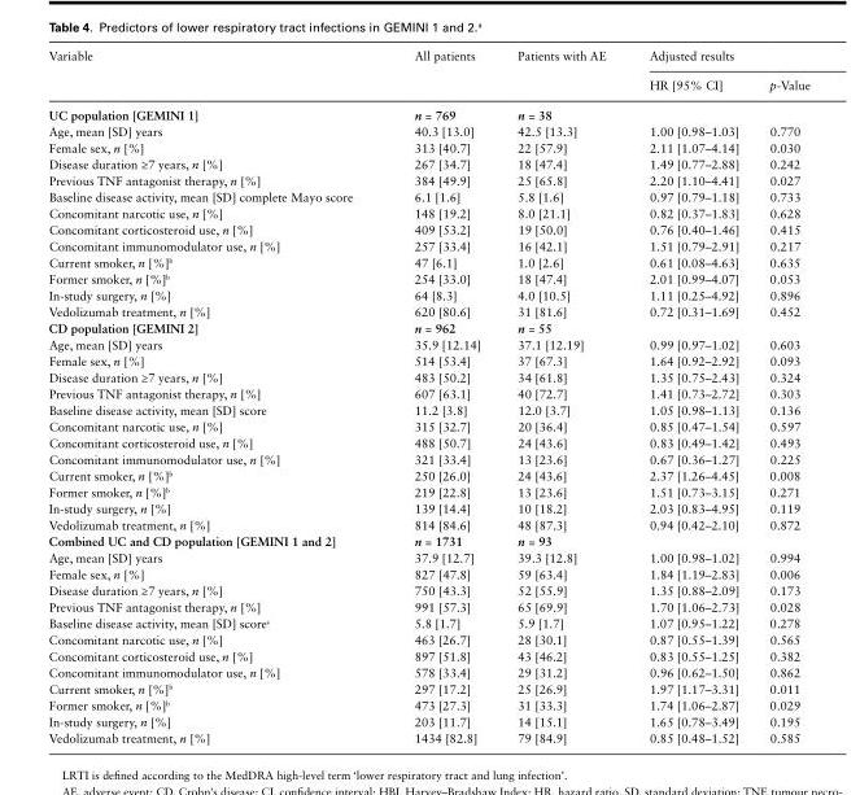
<table><thead><tr><td rowspan="2">Variable</td><td rowspan="2">All patients</td><td rowspan="2">Patients with AE</td><td colspan="2">Adjusted results</td></tr><tr><td>HR [95% CI]</td><td>p-Value</td></tr></thead><tbody><tr><td>UC population [GEMINI 1]</td><td>n = 769</td><td>n = 38</td><td></td><td></td></tr><tr><td>Age, mean [SD] years</td><td>40.3 [13.0]</td><td>42.5 [13.3]</td><td>1.00 [0.98–1.03]</td><td>0.770</td></tr><tr><td>Female sex, n [%]</td><td>313 [40.7]</td><td>22 [57.9]</td><td>2.11 [1.07–4.14]</td><td>0.030</td></tr><tr><td>Disease duration ≥7 years, n [%]</td><td>267 [34.7]</td><td>18 [47.4]</td><td>1.49 [0.77–2.88]</td><td>0.242</td></tr><tr><td>Previous TNF antagonist therapy, n [%]</td><td>384 [49.9]</td><td>25 [65.8]</td><td>2.20 [1.10–4.41]</td><td>0.027</td></tr><tr><td>Baseline disease activity, mean [SD] complete Mayo score</td><td>6.1 [1.6]</td><td>5.8 [1.6]</td><td>0.97 [0.79–1.18]</td><td>0.733</td></tr><tr><td>Concomitant narcotic use, n [%]</td><td>148 [19.2]</td><td>8.0 [21.1]</td><td>0.82 [0.37–1.83]</td><td>0.628</td></tr><tr><td>Concomitant corticosteroid use, n [%]</td><td>409 [53.2]</td><td>19 [50.0]</td><td>0.76 [0.40–1.46]</td><td>0.415</td></tr><tr><td>Concomitant immunomodulator use, n [%]</td><td>257 [33.4]</td><td>16 [42.1]</td><td>1.51 [0.79–2.91]</td><td>0.217</td></tr><tr><td>Current smoker, n [%]<sup>b</sup></td><td>47 [6.1]</td><td>1.0 [2.6]</td><td>0.61 [0.08–4.63]</td><td>0.635</td></tr><tr><td>Former smoker, n [%]<sup>b</sup></td><td>254 [33.0]</td><td>18 [47.4]</td><td>2.01 [0.99–4.07]</td><td>0.053</td></tr><tr><td>In-study surgery, n [%]</td><td>64 [8.3]</td><td>4.0 [10.5]</td><td>1.11 [0.25–4.92]</td><td>0.896</td></tr><tr><td>Vedolizumab treatment, n [%]</td><td>620 [80.6]</td><td>31 [81.6]</td><td>0.72 [0.31–1.69]</td><td>0.452</td></tr><tr><td>CD population [GEMINI 2]</td><td>n = 962</td><td>n = 55</td><td></td><td></td></tr><tr><td>Age, mean [SD] years</td><td>35.9 [12.14]</td><td>37.1 [12.19]</td><td>0.99 [0.97–1.02]</td><td>0.603</td></tr><tr><td>Female sex, n [%]</td><td>514 [53.4]</td><td>37 [67.3]</td><td>1.64 [0.92–2.92]</td><td>0.093</td></tr><tr><td>Disease duration ≥7 years, n [%]</td><td>483 [50.2]</td><td>34 [61.8]</td><td>1.35 [0.75–2.43]</td><td>0.324</td></tr><tr><td>Previous TNF antagonist therapy, n [%]</td><td>607 [63.1]</td><td>40 [72.7]</td><td>1.41 [0.73–2.72]</td><td>0.303</td></tr><tr><td>Baseline disease activity, mean [SD] score</td><td>11.2 [3.8]</td><td>12.0 [3.7]</td><td>1.05 [0.98–1.13]</td><td>0.136</td></tr><tr><td>Concomitant narcotic use, n [%]</td><td>315 [32.7]</td><td>20 [36.4]</td><td>0.85 [0.47–1.54]</td><td>0.597</td></tr><tr><td>Concomitant corticosteroid use, n [%]</td><td>488 [50.7]</td><td>24 [43.6]</td><td>0.83 [0.49–1.42]</td><td>0.493</td></tr><tr><td>Concomitant immunomodulator use, n [%]</td><td>321 [33.4]</td><td>13 [23.6]</td><td>0.67 [0.36–1.27]</td><td>0.225</td></tr><tr><td>Current smoker, n [%]<sup>b</sup></td><td>250 [26.0]</td><td>24 [43.6]</td><td>2.37 [1.26–4.45]</td><td>0.008</td></tr><tr><td>Former smoker, n [%]<sup>b</sup></td><td>219 [22.8]</td><td>13 [23.6]</td><td>1.51 [0.73–3.15]</td><td>0.271</td></tr><tr><td>In-study surgery, n [%]</td><td>139 [14.4]</td><td>10 [18.2]</td><td>2.03 [0.83–4.95]</td><td>0.119</td></tr><tr><td>Vedolizumab treatment, n [%]</td><td>814 [84.6]</td><td>48 [87.3]</td><td>0.94 [0.42–2.10]</td><td>0.872</td></tr><tr><td>Combined UC and CD population [GEMINI 1 and 2]</td><td>n = 1731</td><td>n = 93</td><td></td><td></td></tr><tr><td>Age, mean [SD] years</td><td>37.9 [12.7]</td><td>39.3 [12.8]</td><td>1.00 [0.98–1.02]</td><td>0.994</td></tr><tr><td>Female sex, n [%]</td><td>827 [47.8]</td><td>59 [63.4]</td><td>1.84 [1.19–2.83]</td><td>0.006</td></tr><tr><td>Disease duration ≥7 years, n [%]</td><td>750 [43.3]</td><td>52 [55.9]</td><td>1.35 [0.88–2.09]</td><td>0.173</td></tr><tr><td>Previous TNF antagonist therapy, n [%]</td><td>991 [57.3]</td><td>65 [69.9]</td><td>1.70 [1.06–2.73]</td><td>0.028</td></tr><tr><td>Baseline disease activity, mean [SD] score<sup>c</sup></td><td>5.8 [1.7]</td><td>5.9 [1.7]</td><td>1.07 [0.95–1.22]</td><td>0.278</td></tr><tr><td>Concomitant narcotic use, n [%]</td><td>463 [26.7]</td><td>28 [30.1]</td><td>0.87 [0.55–1.39]</td><td>0.565</td></tr><tr><td>Concomitant corticosteroid use, n [%]</td><td>897 [51.8]</td><td>43 [46.2]</td><td>0.83 [0.55–1.25]</td><td>0.382</td></tr><tr><td>Concomitant immunomodulator use, n [%]</td><td>578 [33.4]</td><td>29 [31.2]</td><td>0.96 [0.62–1.50]</td><td>0.862</td></tr><tr><td>Current smoker, n [%]<sup>b</sup></td><td>297 [17.2]</td><td>25 [26.9]</td><td>1.97 [1.17–3.31]</td><td>0.011</td></tr><tr><td>Former smoker, n [%]<sup>b</sup></td><td>473 [27.3]</td><td>31 [33.3]</td><td>1.74 [1.06–2.87]</td><td>0.029</td></tr><tr><td>In-study surgery, n [%]</td><td>203 [11.7]</td><td>14 [15.1]</td><td>1.65 [0.78–3.49]</td><td>0.195</td></tr><tr><td>Vedolizumab treatment, n [%]</td><td>1434 [82.8]</td><td>79 [84.9]</td><td>0.85 [0.48–1.52]</td><td>0.585</td></tr></tbody></table>